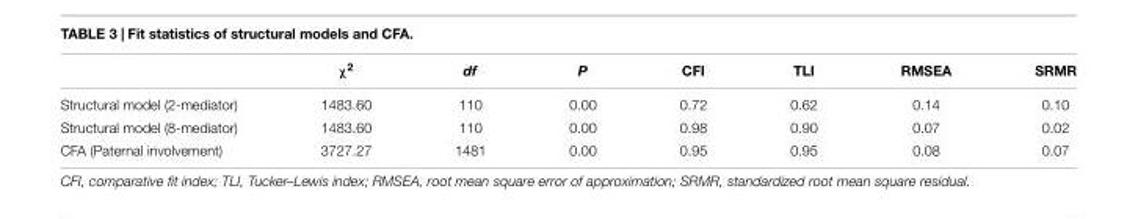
<table><thead><tr><td></td><td>χ<sup>2</sup></td><td>df</td><td>P</td><td>CFI</td><td>TLI</td><td>RMSEA</td><td>SRMR</td></tr></thead><tbody><tr><td>Structural model (2-mediator)</td><td>1483.60</td><td>110</td><td>0.00</td><td>0.72</td><td>0.62</td><td>0.14</td><td>0.10</td></tr><tr><td>Structural model (8-mediator)</td><td>1483.60</td><td>110</td><td>0.00</td><td>0.98</td><td>0.90</td><td>0.07</td><td>0.02</td></tr><tr><td>CFA (Paternal involvement)</td><td>3727.27</td><td>1481</td><td>0.00</td><td>0.95</td><td>0.95</td><td>0.08</td><td>0.07</td></tr></tbody></table>